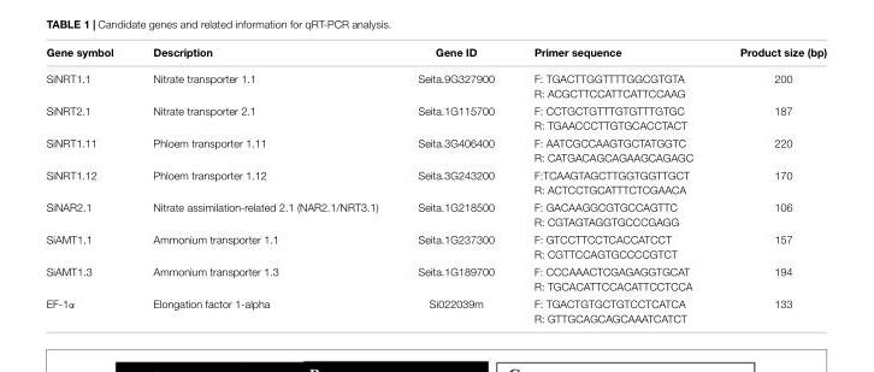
<table><thead><tr><td>Gene symbol</td><td>Description</td><td>Gene ID</td><td>Primer sequence</td><td>Product size (bp)</td></tr></thead><tbody><tr><td>SiNRT1.1</td><td>Nitrate transporter 1.1</td><td>Seita.9G327900</td><td>F: TGACTTGGTTTTGGCGTGTA R: ACGCTTCCATTCATTCCAAG</td><td>200</td></tr><tr><td>SiNRT2.1</td><td>Nitrate transporter 2.1</td><td>Seita.1G115700</td><td>F: CCTGCTGTTTGTGTTTGTGC R: TGAACCCTTGTGCACCTACT</td><td>187</td></tr><tr><td>SiNRT1.11</td><td>Phloem transporter 1.11</td><td>Seita.3G406400</td><td>F: AATCGCCAAGTGCTATGGTC R: CATGACAGCAGAAGCAGAGC</td><td>220</td></tr><tr><td>SiNRT1.12</td><td>Phloem transporter 1.12</td><td>Seita.3G243200</td><td>F:TCAAGTAGCTTGGTGGTTGCT R: ACTCCTGCATTTCTCGAACA</td><td>170</td></tr><tr><td>SiNAR2.1</td><td>Nitrate assimilation-related 2.1 (NAR2.1/NRT3.1)</td><td>Seita.1G218500</td><td>F: GACAAGGCGTGCCAGTTC R: CGTAGTAGGTGCCCGAGG</td><td>106</td></tr><tr><td>SiAMT1.1</td><td>Ammonium transporter 1.1</td><td>Seita.1G237300</td><td>F: GTCCTTCCTCACCATCCT R: CGTTCCAGTGCCCCGTCT</td><td>157</td></tr><tr><td>SiAMT1.3</td><td>Ammonium transporter 1.3</td><td>Seita.1G189700</td><td>F: CCCAAACTCGAGAGGTGCAT R: TGCACATTCCACATTCCTCCA</td><td>194</td></tr><tr><td>EF-1α</td><td>Elongation factor 1-alpha</td><td>Si022039m</td><td>F: TGACTGTGCTGTCCTCATCA R: GTTGCAGCAGCAAATCATCT</td><td>133</td></tr></tbody></table>